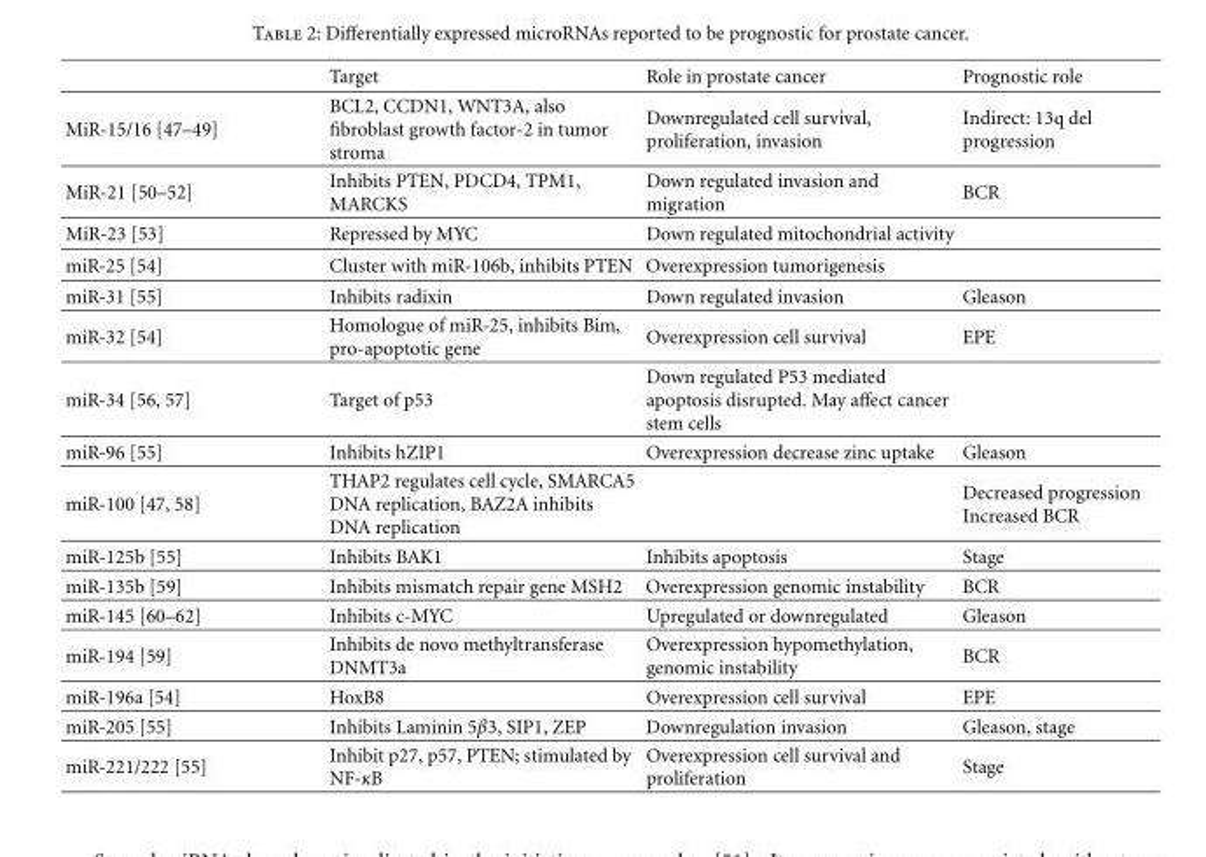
<table><thead><tr><td></td><td>Target</td><td>Role in prostate cancer</td><td>Prognostic role</td></tr></thead><tbody><tr><td>MiR-15/16 [47–49]</td><td>BCL2, CCDN1, WNT3A, also fibroblast growth factor-2 in tumor stroma</td><td>Downregulated cell survival, proliferation, invasion</td><td>Indirect: 13q del progression</td></tr><tr><td>MiR-21 [50–52]</td><td>Inhibits PTEN, PDCD4, TPM1, MARCKS</td><td>Down regulated invasion and migration</td><td>BCR</td></tr><tr><td>MiR-23 [53]</td><td>Repressed by MYC</td><td>Down regulated mitochondrial activity</td><td></td></tr><tr><td>miR-25 [54]</td><td>Cluster with miR-106b, inhibits PTEN</td><td>Overexpression tumorigenesis</td><td></td></tr><tr><td>miR-31 [55]</td><td>Inhibits radixin</td><td>Down regulated invasion</td><td>Gleason</td></tr><tr><td>miR-32 [54]</td><td>Homologue of miR-25, inhibits Bim, pro-apoptotic gene</td><td>Overexpression cell survival</td><td>EPE</td></tr><tr><td>miR-34 [56, 57]</td><td>Target of p53</td><td>Down regulated P53 mediated apoptosis disrupted. May affect cancer stem cells</td><td></td></tr><tr><td>miR-96 [55]</td><td>Inhibits hZIP1</td><td>Overexpression decrease zinc uptake</td><td>Gleason</td></tr><tr><td>miR-100 [47, 58]</td><td>THAP2 regulates cell cycle, SMARCA5 DNA replication, BAZ2A inhibits DNA replication</td><td></td><td>Decreased progression Increased BCR</td></tr><tr><td>miR-125b [55]</td><td>Inhibits BAK1</td><td>Inhibits apoptosis</td><td>Stage</td></tr><tr><td>miR-135b [59]</td><td>Inhibits mismatch repair gene MSH2</td><td>Overexpression genomic instability</td><td>BCR</td></tr><tr><td>miR-145 [60–62]</td><td>Inhibits c-MYC</td><td>Upregulated or downregulated</td><td>Gleason</td></tr><tr><td>miR-194 [59]</td><td>Inhibits de novo methyltransferase DNMT3a</td><td>Overexpression hypomethylation, genomic instability</td><td>BCR</td></tr><tr><td>miR-196a [54]</td><td>HoxB8</td><td>Overexpression cell survival</td><td>EPE</td></tr><tr><td>miR-205 [55]</td><td>Inhibits Laminin 5β3, SIP1, ZEP</td><td>Downregulation invasion</td><td>Gleason, stage</td></tr><tr><td>miR-221/222 [55]</td><td>Inhibit p27, p57, PTEN; stimulated by NF-κB</td><td>Overexpression cell survival and proliferation</td><td>Stage</td></tr></tbody></table>